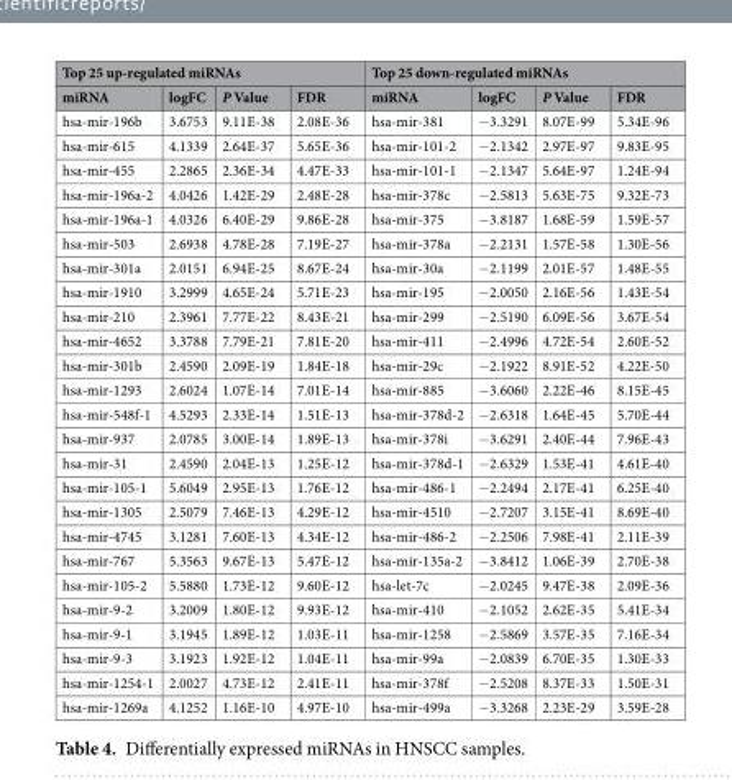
<table><thead><tr><td colspan="4">Top 25 up-regulated miRNAs</td><td colspan="4">Top 25 down-regulated miRNAs</td></tr><tr><td>miRNA</td><td>logFC</td><td>P Value</td><td>FDR</td><td>miRNA</td><td>logFC</td><td>P Value</td><td>FDR</td></tr></thead><tbody><tr><td>hsa-mir-196b</td><td>3.6753</td><td>9.11E-38</td><td>2.08E-36</td><td>hsa-mir-381</td><td>−3.3291</td><td>8.07E-99</td><td>5.34E-96</td></tr><tr><td>hsa-mir-615</td><td>4.1339</td><td>2.64E-37</td><td>5.65E-36</td><td>hsa-mir-101-2</td><td>−2.1342</td><td>2.97E-97</td><td>9.83E-95</td></tr><tr><td>hsa-mir-455</td><td>2.2865</td><td>2.36E-34</td><td>4.47E-33</td><td>hsa-mir-101-1</td><td>−2.1347</td><td>5.64E-97</td><td>1.24E-94</td></tr><tr><td>hsa-mir-196a-2</td><td>4.0426</td><td>1.42E-29</td><td>2.48E-28</td><td>hsa-mir-378c</td><td>−2.5813</td><td>5.63E-75</td><td>9.32E-73</td></tr><tr><td>hsa-mir-196a-1</td><td>4.0326</td><td>6.40E-29</td><td>9.86E-28</td><td>hsa-mir-375</td><td>−3.8187</td><td>1.68E-59</td><td>1.59E-57</td></tr><tr><td>hsa-mir-503</td><td>2.6938</td><td>4.78E-28</td><td>7.19E-27</td><td>hsa-mir-378a</td><td>−2.2131</td><td>1.57E-58</td><td>1.30E-56</td></tr><tr><td>hsa-mir-301a</td><td>2.0151</td><td>6.94E-25</td><td>8.67E-24</td><td>hsa-mir-30a</td><td>−2.1199</td><td>2.01E-57</td><td>1.48E-55</td></tr><tr><td>hsa-mir-1910</td><td>3.2999</td><td>4.65E-24</td><td>5.71E-23</td><td>hsa-mir-195</td><td>−2.0050</td><td>2.16E-56</td><td>1.43E-54</td></tr><tr><td>hsa-mir-210</td><td>2.3961</td><td>7.77E-22</td><td>8.43E-21</td><td>hsa-mir-299</td><td>−2.5190</td><td>6.09E-56</td><td>3.67E-54</td></tr><tr><td>hsa-mir-4652</td><td>3.3788</td><td>7.79E-21</td><td>7.81E-20</td><td>hsa-mir-411</td><td>−2.4996</td><td>4.72E-54</td><td>2.60E-52</td></tr><tr><td>hsa-mir-301b</td><td>2.4590</td><td>2.09E-19</td><td>1.84E-18</td><td>hsa-mir-29c</td><td>−2.1922</td><td>8.91E-52</td><td>4.22E-50</td></tr><tr><td>hsa-mir-1293</td><td>2.6024</td><td>1.07E-14</td><td>7.01E-14</td><td>hsa-mir-885</td><td>−3.6060</td><td>2.22E-46</td><td>8.15E-45</td></tr><tr><td>hsa-mir-548f-1</td><td>4.5293</td><td>2.33E-14</td><td>1.51E-13</td><td>hsa-mir-378d-2</td><td>−2.6318</td><td>1.64E-45</td><td>5.70E-44</td></tr><tr><td>hsa-mir-937</td><td>2.0785</td><td>3.00E-14</td><td>1.89E-13</td><td>hsa-mir-378i</td><td>−3.6291</td><td>2.40E-44</td><td>7.96E-43</td></tr><tr><td>hsa-mir-31</td><td>2.4590</td><td>2.04E-13</td><td>1.25E-12</td><td>hsa-mir-378d-1</td><td>−2.6329</td><td>1.53E-41</td><td>4.61E-40</td></tr><tr><td>hsa-mir-105-1</td><td>5.6049</td><td>2.95E-13</td><td>1.76E-12</td><td>hsa-mir-486-1</td><td>−2.2494</td><td>2.17E-41</td><td>6.25E-40</td></tr><tr><td>hsa-mir-1305</td><td>2.5079</td><td>7.46E-13</td><td>4.29E-12</td><td>hsa-mir-4510</td><td>−2.7207</td><td>3.15E-41</td><td>8.69E-40</td></tr><tr><td>hsa-mir-4745</td><td>3.1281</td><td>7.60E-13</td><td>4.34E-12</td><td>hsa-mir-486-2</td><td>−2.2506</td><td>7.98E-41</td><td>2.11E-39</td></tr><tr><td>hsa-mir-767</td><td>5.3563</td><td>9.67E-13</td><td>5.47E-12</td><td>hsa-mir-135a-2</td><td>−3.8412</td><td>1.06E-39</td><td>2.70E-38</td></tr><tr><td>hsa-mir-105-2</td><td>5.5880</td><td>1.73E-12</td><td>9.60E-12</td><td>hsa-let-7c</td><td>−2.0245</td><td>9.47E-38</td><td>2.09E-36</td></tr><tr><td>hsa-mir-9-2</td><td>3.2009</td><td>1.80E-12</td><td>9.93E-12</td><td>hsa-mir-410</td><td>−2.1052</td><td>2.62E-35</td><td>5.41E-34</td></tr><tr><td>hsa-mir-9-1</td><td>3.1945</td><td>1.89E-12</td><td>1.03E-11</td><td>hsa-mir-1258</td><td>−2.5869</td><td>3.57E-35</td><td>7.16E-34</td></tr><tr><td>hsa-mir-9-3</td><td>3.1923</td><td>1.92E-12</td><td>1.04E-11</td><td>hsa-mir-99a</td><td>−2.0839</td><td>6.70E-35</td><td>1.30E-33</td></tr><tr><td>hsa-mir-1254-1</td><td>2.0027</td><td>4.73E-12</td><td>2.41E-11</td><td>hsa-mir-378f</td><td>−2.5208</td><td>8.37E-33</td><td>1.50E-31</td></tr><tr><td>hsa-mir-1269a</td><td>4.1252</td><td>1.16E-10</td><td>4.97E-10</td><td>hsa-mir-499a</td><td>−3.3268</td><td>2.23E-29</td><td>3.59E-28</td></tr></tbody></table>